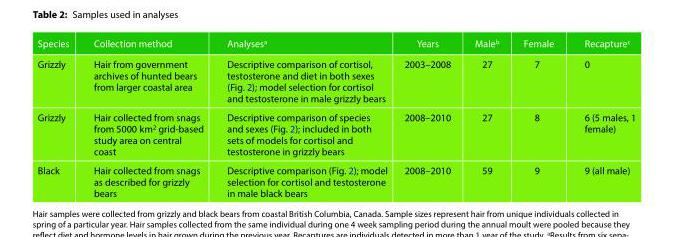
<table><thead><tr><td>Species</td><td>Collection method</td><td>Analyses<sup>a</sup></td><td>Years</td><td>Male<sup>b</sup></td><td>Female</td><td>Recapture<sup>c</sup></td></tr></thead><tbody><tr><td>Grizzly</td><td>Hair from government archives of hunted bears from larger coastal area</td><td>Descriptive comparison of cortisol, testosterone and diet in both sexes (Fig. 2); model selection for cortisol and testosterone in male grizzly bears</td><td>2003–2008</td><td>27</td><td>7</td><td>0</td></tr><tr><td>Grizzly</td><td>Hair collected from snags from 5000 km<sup>2</sup> grid-based study area on central coast</td><td>Descriptive comparison of species and sexes (Fig. 2); included in both sets of models for cortisol and testosterone in grizzly bears</td><td>2008–2010</td><td>27</td><td>8</td><td>6 (5 males, 1 female)</td></tr><tr><td>Black</td><td>Hair collected from snags as described for grizzly bears</td><td>Descriptive comparison (Fig. 2); model selection for cortisol and testosterone in male black bears</td><td>2008–2010</td><td>59</td><td>9</td><td>9 (all male)</td></tr></tbody></table>